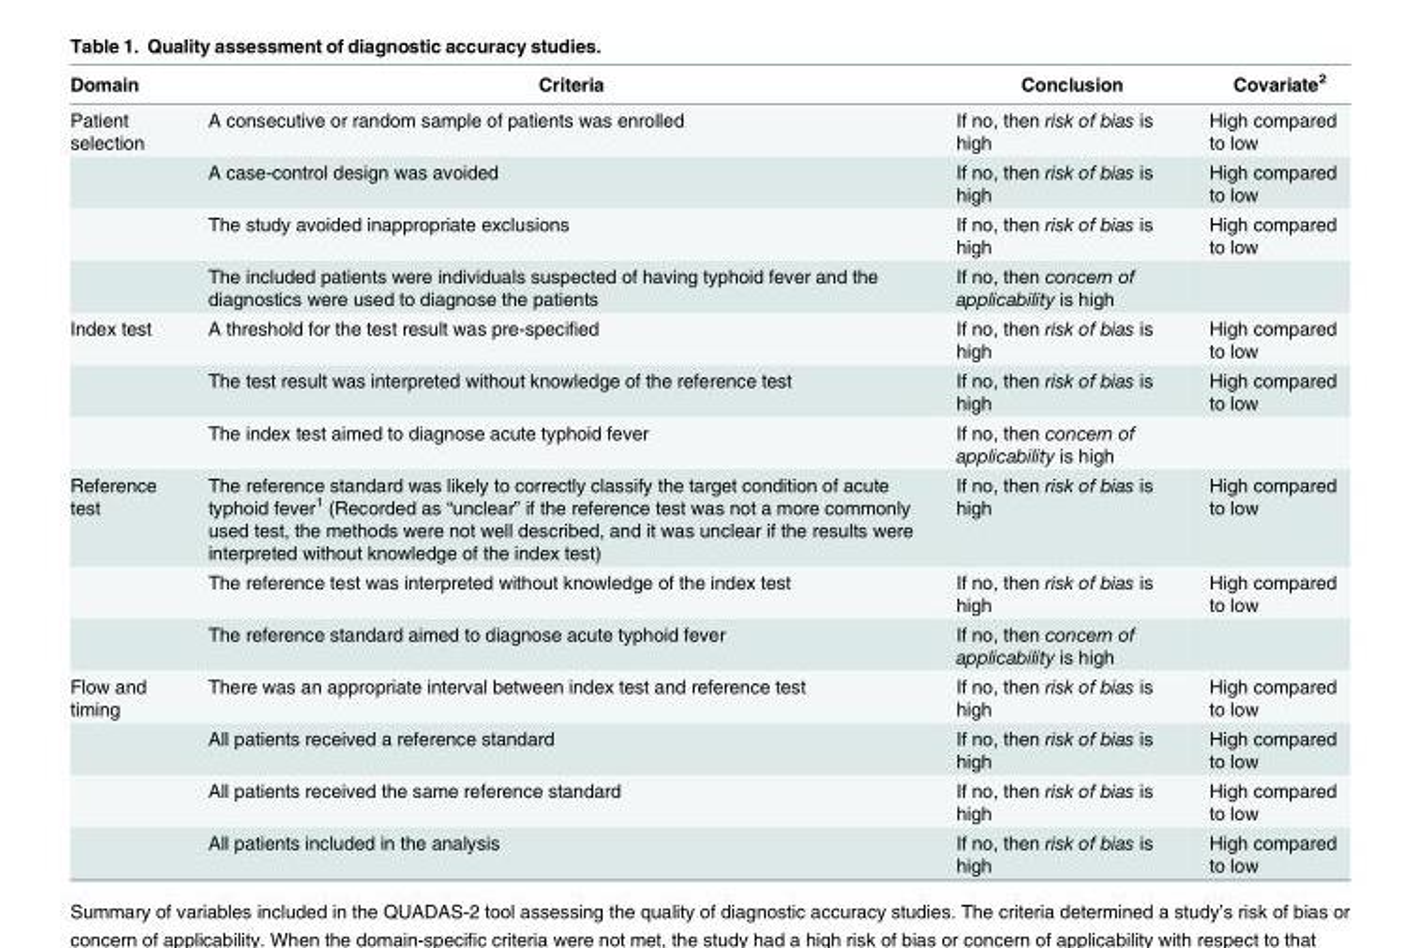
<table><thead><tr><td>Domain</td><td>Criteria</td><td>Conclusion</td><td>Covariate<sup>2</sup></td></tr></thead><tbody><tr><td rowspan="4">Patient selection</td><td>A consecutive or random sample of patients was enrolled</td><td>If no, then risk of bias is high</td><td>High compared to low</td></tr><tr><td>A case-control design was avoided</td><td>If no, then risk of bias is high</td><td>High compared to low</td></tr><tr><td>The study avoided inappropriate exclusions</td><td>If no, then risk of bias is high</td><td>High compared to low</td></tr><tr><td>The included patients were individuals suspected of having typhoid fever and the diagnostics were used to diagnose the patients</td><td>If no, then concern of applicability is high</td><td></td></tr><tr><td rowspan="3">Index test</td><td>A threshold for the test result was pre-specified</td><td>If no, then risk of bias is high</td><td>High compared to low</td></tr><tr><td>The test result was interpreted without knowledge of the reference test</td><td>If no, then risk of bias is high</td><td>High compared to low</td></tr><tr><td>The index test aimed to diagnose acute typhoid fever</td><td>If no, then concern of applicability is high</td><td></td></tr><tr><td rowspan="3">Reference test</td><td>The reference standard was likely to correctly classify the target condition of acute typhoid fever<sup>1</sup> (Recorded as “unclear” if the reference test was not a more commonly used test, the methods were not well described, and it was unclear if the results were interpreted without knowledge of the index test)</td><td>If no, then risk of bias is high</td><td>High compared to low</td></tr><tr><td>The reference test was interpreted without knowledge of the index test</td><td>If no, then risk of bias is high</td><td>High compared to low</td></tr><tr><td>The reference standard aimed to diagnose acute typhoid fever</td><td>If no, then concern of applicability is high</td><td></td></tr><tr><td rowspan="4">Flow and timing</td><td>There was an appropriate interval between index test and reference test</td><td>If no, then risk of bias is high</td><td>High compared to low</td></tr><tr><td>All patients received a reference standard</td><td>If no, then risk of bias is high</td><td>High compared to low</td></tr><tr><td>All patients received the same reference standard</td><td>If no, then risk of bias is high</td><td>High compared to low</td></tr><tr><td>All patients included in the analysis</td><td>If no, then risk of bias is high</td><td>High compared to low</td></tr></tbody></table>